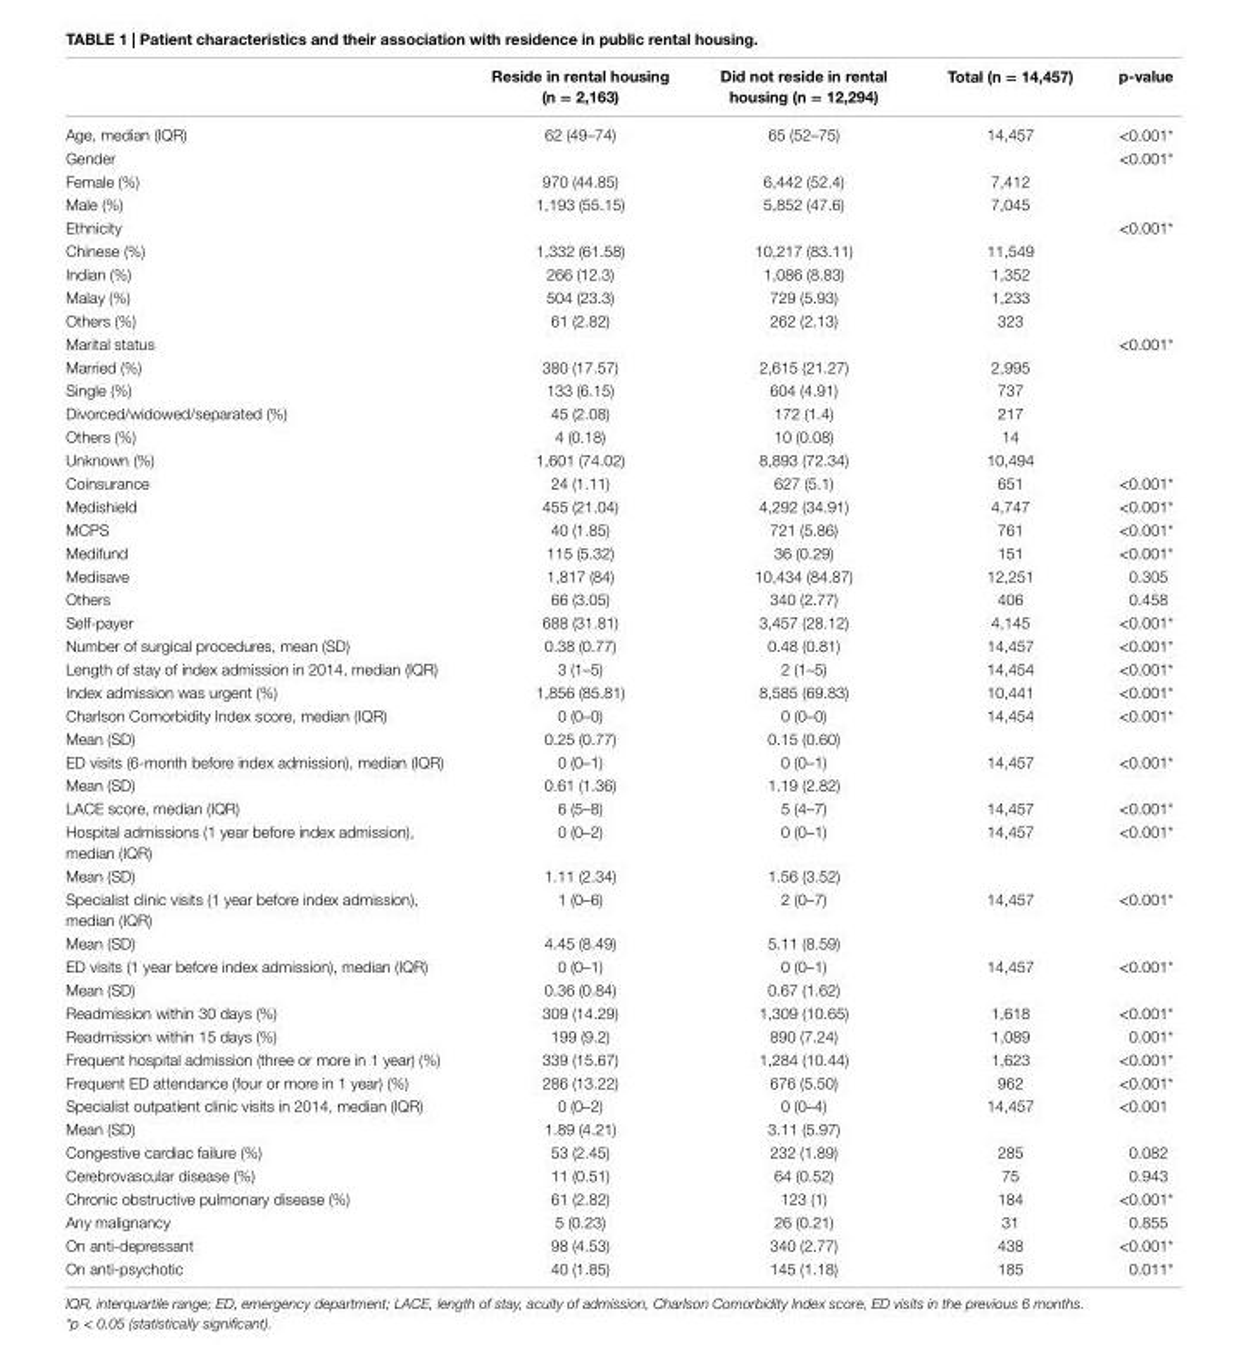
<table><thead><tr><td></td><td>reside in rental housing (n = 2,163)</td><td>Did not reside in rental housing (n = 12,294)</td><td>Total (n = 14,457)</td><td>p-value</td></tr></thead><tbody><tr><td>Age, median (IQR)</td><td>62 (49–74)</td><td>65 (52–75)</td><td>14,457</td><td>&lt;0.001*</td></tr><tr><td>Gender</td><td></td><td></td><td></td><td>&lt;0.001*</td></tr><tr><td>Female (%)</td><td>970 (44.85)</td><td>6,442 (52.4)</td><td>7,412</td><td></td></tr><tr><td>Male (%)</td><td>1,193 (55.15)</td><td>5,852 (47.6)</td><td>7,045</td><td></td></tr><tr><td>Ethnicity</td><td></td><td></td><td></td><td>&lt;0.001*</td></tr><tr><td>Chinese (%)</td><td>1,332 (61.58)</td><td>10,217 (83.11)</td><td>11,549</td><td></td></tr><tr><td>Indian (%)</td><td>266 (12.3)</td><td>1,086 (8.83)</td><td>1,352</td><td></td></tr><tr><td>Malay (%)</td><td>504 (23.3)</td><td>729 (5.93)</td><td>1,233</td><td></td></tr><tr><td>Others (%)</td><td>61 (2.82)</td><td>262 (2.13)</td><td>323</td><td></td></tr><tr><td>Marital status</td><td></td><td></td><td></td><td>&lt;0.001*</td></tr><tr><td>Married (%)</td><td>380 (17.57)</td><td>2,615 (21.27)</td><td>2,995</td><td></td></tr><tr><td>Single (%)</td><td>133 (6.15)</td><td>604 (4.91)</td><td>737</td><td></td></tr><tr><td>Divorced/widowed/separated (%)</td><td>45 (2.08)</td><td>172 (1.4)</td><td>217</td><td></td></tr><tr><td>Others (%)</td><td>4 (0.18)</td><td>10 (0.08)</td><td>14</td><td></td></tr><tr><td>Unknown (%)</td><td>1,601 (74.02)</td><td>8,893 (72.34)</td><td>10,494</td><td></td></tr><tr><td>Coinsurance</td><td>24 (1.11)</td><td>627 (5.1)</td><td>651</td><td>&lt;0.001*</td></tr><tr><td>Medishield</td><td>455 (21.04)</td><td>4,292 (34.91)</td><td>4,747</td><td>&lt;0.001*</td></tr><tr><td>MCPS</td><td>40 (1.85)</td><td>721 (5.86)</td><td>761</td><td>&lt;0.001*</td></tr><tr><td>Medifund</td><td>115 (5.32)</td><td>36 (0.29)</td><td>151</td><td>&lt;0.001*</td></tr><tr><td>Medisave</td><td>1,817 (84)</td><td>10,434 (84.87)</td><td>12,251</td><td>0.305</td></tr><tr><td>Others</td><td>66 (3.05)</td><td>340 (2.77)</td><td>406</td><td>0.458</td></tr><tr><td>Self-payer</td><td>688 (31.81)</td><td>3,457 (28.12)</td><td>4,145</td><td>&lt;0.001*</td></tr><tr><td>Number of surgical procedures, mean (SD)</td><td>0.38 (0.77)</td><td>0.48 (0.81)</td><td>14,457</td><td>&lt;0.001*</td></tr><tr><td>Length of stay of index admission in 2014, median (IQR)</td><td>3 (1–5)</td><td>2 (1–5)</td><td>14,454</td><td>&lt;0.001*</td></tr><tr><td>Index admission was urgent (%)</td><td>1,856 (85.81)</td><td>8,585 (69.83)</td><td>10,441</td><td>&lt;0.001*</td></tr><tr><td>Charlson Comorbidity Index score, median (IQR)</td><td>0 (0–0)</td><td>0 (0–0)</td><td>14,454</td><td>&lt;0.001*</td></tr><tr><td>Mean (SD)</td><td>0.25 (0.77)</td><td>0.15 (0.60)</td><td></td><td></td></tr><tr><td>ED visits (6-month before index admission), median (IQR)</td><td>0 (0–1)</td><td>0 (0–1)</td><td>14,457</td><td>&lt;0.001*</td></tr><tr><td>Mean (SD)</td><td>0.61 (1.36)</td><td>1.19 (2.82)</td><td></td><td></td></tr><tr><td>LACE score, median (IQR)</td><td>6 (5–8)</td><td>5 (4–7)</td><td>14,457</td><td>&lt;0.001*</td></tr><tr><td>Hospital admissions (1 year before index admission), median (IQR)</td><td>0 (0–2)</td><td>0 (0–1)</td><td>14,457</td><td>&lt;0.001*</td></tr><tr><td>Mean (SD)</td><td>1.11 (2.34)</td><td>1.56 (3.52)</td><td></td><td></td></tr><tr><td>Specialist clinic visits (1 year before index admission), median (IQR)</td><td>1 (0–6)</td><td>2 (0–7)</td><td>14,457</td><td>&lt;0.001*</td></tr><tr><td>Mean (SD)</td><td>4.45 (8.49)</td><td>5.11 (8.59)</td><td></td><td></td></tr><tr><td>ED visits (1 year before index admission), median (IQR)</td><td>0 (0–1)</td><td>0 (0–1)</td><td>14,457</td><td>&lt;0.001*</td></tr><tr><td>Mean (SD)</td><td>0.36 (0.84)</td><td>0.67 (1.62)</td><td></td><td></td></tr><tr><td>Readmission within 30 days (%)</td><td>309 (14.29)</td><td>1,309 (10.65)</td><td>1,618</td><td>&lt;0.001*</td></tr><tr><td>Readmission within 15 days (%)</td><td>199 (9.2)</td><td>890 (7.24)</td><td>1,089</td><td>0.001*</td></tr><tr><td>Frequent hospital admission (three or more in 1 year) (%)</td><td>339 (15.67)</td><td>1,284 (10.44)</td><td>1,623</td><td>&lt;0.001*</td></tr><tr><td>Frequent ED attendance (four or more in 1 year) (%)</td><td>286 (13.22)</td><td>676 (5.50)</td><td>962</td><td>&lt;0.001*</td></tr><tr><td>Specialist outpatient clinic visits in 2014, median (IQR)</td><td>0 (0–2)</td><td>0 (0–4)</td><td>14,457</td><td>&lt;0.001</td></tr><tr><td>Mean (SD)</td><td>1.89 (4.21)</td><td>3.11 (5.97)</td><td></td><td></td></tr><tr><td>Congestive cardiac failure (%)</td><td>53 (2.45)</td><td>232 (1.89)</td><td>285</td><td>0.082</td></tr><tr><td>Cerebrovascular disease (%)</td><td>11 (0.51)</td><td>64 (0.52)</td><td>75</td><td>0.943</td></tr><tr><td>Chronic obstructive pulmonary disease (%)</td><td>61 (2.82)</td><td>123 (1)</td><td>184</td><td>&lt;0.001*</td></tr><tr><td>Any malignancy</td><td>5 (0.23)</td><td>26 (0.21)</td><td>31</td><td>0.855</td></tr><tr><td>On anti-depressant</td><td>98 (4.53)</td><td>340 (2.77)</td><td>438</td><td>&lt;0.001*</td></tr><tr><td>On anti-psychotic</td><td>40 (1.85)</td><td>145 (1.18)</td><td>185</td><td>0.011*</td></tr></tbody></table>